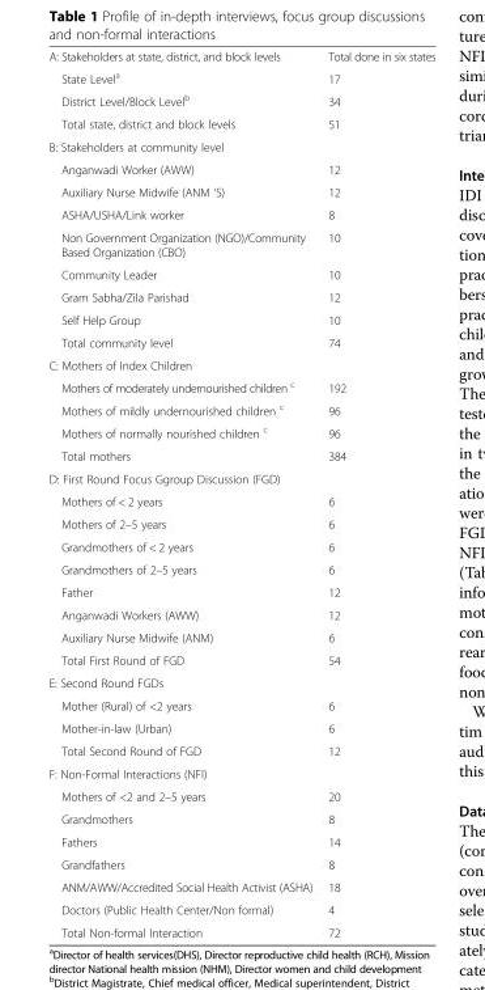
<table><tbody><tr><td>A: Stakeholders at state, district, and block levels</td><td>Total done in six states</td></tr><tr><td>State Level<sup>a</sup></td><td>17</td></tr><tr><td>District Level/Block Level<sup>b</sup></td><td>34</td></tr><tr><td>Total state, district and block levels</td><td>51</td></tr><tr><td colspan="2">B: Stakeholders at community level</td></tr><tr><td>Anganwadi Worker (AWW)</td><td>12</td></tr><tr><td>Auxiliary Nurse Midwife (ANM ‘S)</td><td>12</td></tr><tr><td>ASHA/USHA/Link worker</td><td>8</td></tr><tr><td>Non Government Organization (NGO)/Community Based Organization (CBO)</td><td>10</td></tr><tr><td>Community Leader</td><td>10</td></tr><tr><td>Gram Sabha/Zila Parishad</td><td>12</td></tr><tr><td>Self Help Group</td><td>10</td></tr><tr><td>Total community level</td><td>74</td></tr><tr><td colspan="2">C: Mothers of Index Children</td></tr><tr><td>Mothers of moderately undernourished children <sup>c</sup></td><td>192</td></tr><tr><td>Mothers of mildly undernourished children <sup>c</sup></td><td>96</td></tr><tr><td>Mothers of normally nourished children <sup>c</sup></td><td>96</td></tr><tr><td>Total mothers</td><td>384</td></tr><tr><td colspan="2">D: First Round Focus Ggroup Discussion (FGD)</td></tr><tr><td>Mothers of &lt; 2 years</td><td>6</td></tr><tr><td>Mothers of 2–5 years</td><td>6</td></tr><tr><td>Grandmothers of &lt; 2 years</td><td>6</td></tr><tr><td>Grandmothers of 2–5 years</td><td>6</td></tr><tr><td>Father</td><td>12</td></tr><tr><td>Anganwadi Workers (AWW)</td><td>12</td></tr><tr><td>Auxiliary Nurse Midwife (ANM)</td><td>6</td></tr><tr><td>Total First Round of FGD</td><td>54</td></tr><tr><td colspan="2">E: Second Round FGDs</td></tr><tr><td>Mother (Rural) of &lt;2 years</td><td>6</td></tr><tr><td>Mother-in-law (Urban)</td><td>6</td></tr><tr><td>Total Second Round of FGD</td><td>12</td></tr><tr><td colspan="2">F: Non-Formal Interactions (NFI)</td></tr><tr><td>Mothers of &lt;2 and 2–5 years</td><td>20</td></tr><tr><td>Grandmothers</td><td>8</td></tr><tr><td>Fathers</td><td>14</td></tr><tr><td>Grandfathers</td><td>8</td></tr><tr><td>ANM/AWW/Accredited Social Health Activist (ASHA)</td><td>18</td></tr><tr><td>Doctors (Public Health Center/Non formal)</td><td>4</td></tr><tr><td>Total Non-formal Interaction</td><td>72</td></tr></tbody></table>